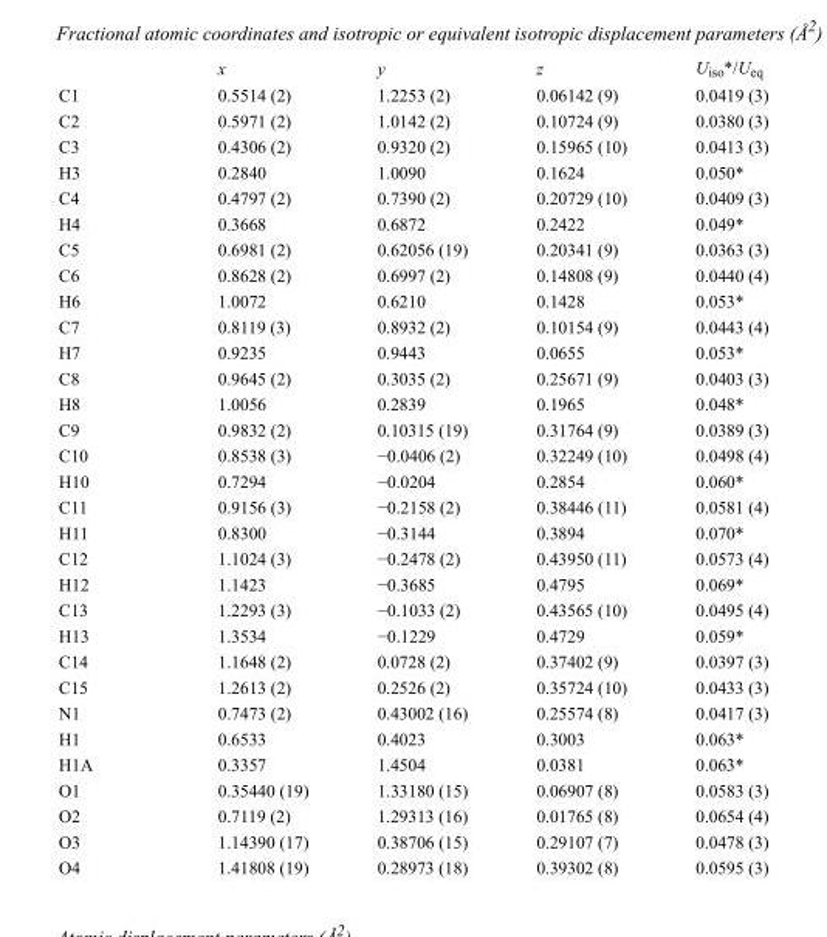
<table><thead><tr><td></td><td>x</td><td>y</td><td>z</td><td>U<sub>iso</sub>*/U<sub>eq</sub></td></tr></thead><tbody><tr><td>C1</td><td>0.5514 (2)</td><td>1.2253 (2)</td><td>0.06142 (9)</td><td>0.0419 (3)</td></tr><tr><td>C2</td><td>0.5971 (2)</td><td>1.0142 (2)</td><td>0.10724 (9)</td><td>0.0380 (3)</td></tr><tr><td>C3</td><td>0.4306 (2)</td><td>0.9320 (2)</td><td>0.15965 (10)</td><td>0.0413 (3)</td></tr><tr><td>H3</td><td>0.2840</td><td>1.0090</td><td>0.1624</td><td>0.050*</td></tr><tr><td>C4</td><td>0.4797 (2)</td><td>0.7390 (2)</td><td>0.20729 (10)</td><td>0.0409 (3)</td></tr><tr><td>H4</td><td>0.3668</td><td>0.6872</td><td>0.2422</td><td>0.049*</td></tr><tr><td>C5</td><td>0.6981 (2)</td><td>0.62056 (19)</td><td>0.20341 (9)</td><td>0.0363 (3)</td></tr><tr><td>C6</td><td>0.8628 (2)</td><td>0.6997 (2)</td><td>0.14808 (9)</td><td>0.0440 (4)</td></tr><tr><td>H6</td><td>1.0072</td><td>0.6210</td><td>0.1428</td><td>0.053*</td></tr><tr><td>C7</td><td>0.8119 (3)</td><td>0.8932 (2)</td><td>0.10154 (9)</td><td>0.0443 (4)</td></tr><tr><td>H7</td><td>0.9235</td><td>0.9443</td><td>0.0655</td><td>0.053*</td></tr><tr><td>C8</td><td>0.9645 (2)</td><td>0.3035 (2)</td><td>0.25671 (9)</td><td>0.0403 (3)</td></tr><tr><td>H8</td><td>1.0056</td><td>0.2839</td><td>0.1965</td><td>0.048*</td></tr><tr><td>C9</td><td>0.9832 (2)</td><td>0.10315 (19)</td><td>0.31764 (9)</td><td>0.0389 (3)</td></tr><tr><td>C10</td><td>0.8538 (3)</td><td>−0.0406 (2)</td><td>0.32249 (10)</td><td>0.0498 (4)</td></tr><tr><td>H10</td><td>0.7294</td><td>−0.0204</td><td>0.2854</td><td>0.060*</td></tr><tr><td>C11</td><td>0.9156 (3)</td><td>−0.2158 (2)</td><td>0.38446 (11)</td><td>0.0581 (4)</td></tr><tr><td>H11</td><td>0.8300</td><td>−0.3144</td><td>0.3894</td><td>0.070*</td></tr><tr><td>C12</td><td>1.1024 (3)</td><td>−0.2478 (2)</td><td>0.43950 (11)</td><td>0.0573 (4)</td></tr><tr><td>H12</td><td>1.1423</td><td>−0.3685</td><td>0.4795</td><td>0.069*</td></tr><tr><td>C13</td><td>1.2293 (3)</td><td>−0.1033 (2)</td><td>0.43565 (10)</td><td>0.0495 (4)</td></tr><tr><td>H13</td><td>1.3534</td><td>−0.1229</td><td>0.4729</td><td>0.059*</td></tr><tr><td>C14</td><td>1.1648 (2)</td><td>0.0728 (2)</td><td>0.37402 (9)</td><td>0.0397 (3)</td></tr><tr><td>C15</td><td>1.2613 (2)</td><td>0.2526 (2)</td><td>0.35724 (10)</td><td>0.0433 (3)</td></tr><tr><td>N1</td><td>0.7473 (2)</td><td>0.43002 (16)</td><td>0.25574 (8)</td><td>0.0417 (3)</td></tr><tr><td>H1</td><td>0.6533</td><td>0.4023</td><td>0.3003</td><td>0.063*</td></tr><tr><td>H1A</td><td>0.3357</td><td>1.4504</td><td>0.0381</td><td>0.063*</td></tr><tr><td>O1</td><td>0.35440 (19)</td><td>1.33180 (15)</td><td>0.06907 (8)</td><td>0.0583 (3)</td></tr><tr><td>O2</td><td>0.7119 (2)</td><td>1.29313 (16)</td><td>0.01765 (8)</td><td>0.0654 (4)</td></tr><tr><td>O3</td><td>1.14390 (17)</td><td>0.38706 (15)</td><td>0.29107 (7)</td><td>0.0478 (3)</td></tr><tr><td>O4</td><td>1.41808 (19)</td><td>0.28973 (18)</td><td>0.39302 (8)</td><td>0.0595 (3)</td></tr></tbody></table>